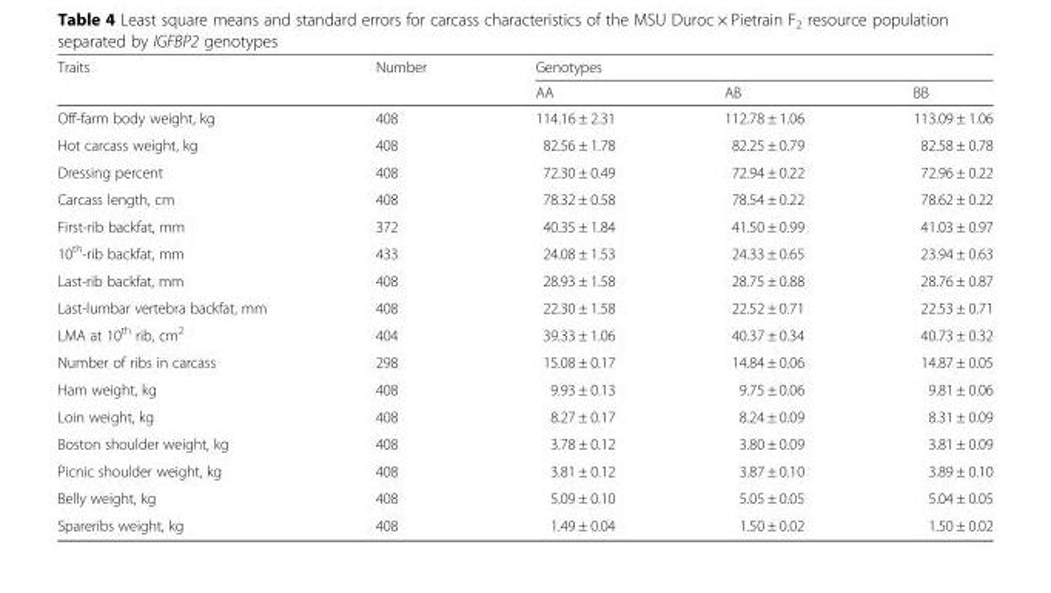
<table><thead><tr><td rowspan="2">Traits</td><td rowspan="2">Number</td><td colspan="3">Genotypes</td></tr><tr><td>AA</td><td>AB</td><td>BB</td></tr></thead><tbody><tr><td>Off-farm body weight, kg</td><td>408</td><td>114.16 ± 2.31</td><td>112.78 ± 1.06</td><td>113.09 ± 1.06</td></tr><tr><td>Hot carcass weight, kg</td><td>408</td><td>82.56 ± 1.78</td><td>82.25 ± 0.79</td><td>82.58 ± 0.78</td></tr><tr><td>Dressing percent</td><td>408</td><td>72.30 ± 0.49</td><td>72.94 ± 0.22</td><td>72.96 ± 0.22</td></tr><tr><td>Carcass length, cm</td><td>408</td><td>78.32 ± 0.58</td><td>78.54 ± 0.22</td><td>78.62 ± 0.22</td></tr><tr><td>First-rib backfat, mm</td><td>372</td><td>40.35 ± 1.84</td><td>41.50 ± 0.99</td><td>41.03 ± 0.97</td></tr><tr><td>10<sup>th</sup>-rib backfat, mm</td><td>433</td><td>24.08 ± 1.53</td><td>24.33 ± 0.65</td><td>23.94 ± 0.63</td></tr><tr><td>Last-rib backfat, mm</td><td>408</td><td>28.93 ± 1.58</td><td>28.75 ± 0.88</td><td>28.76 ± 0.87</td></tr><tr><td>Last-lumbar vertebra backfat, mm</td><td>408</td><td>22.30 ± 1.58</td><td>22.52 ± 0.71</td><td>22.53 ± 0.71</td></tr><tr><td>LMA at 10<sup>th</sup> rib, cm<sup>2</sup></td><td>404</td><td>39.33 ± 1.06</td><td>40.37 ± 0.34</td><td>40.73 ± 0.32</td></tr><tr><td>Number of ribs in carcass</td><td>298</td><td>15.08 ± 0.17</td><td>14.84 ± 0.06</td><td>14.87 ± 0.05</td></tr><tr><td>Ham weight, kg</td><td>408</td><td>9.93 ± 0.13</td><td>9.75 ± 0.06</td><td>9.81 ± 0.06</td></tr><tr><td>Loin weight, kg</td><td>408</td><td>8.27 ± 0.17</td><td>8.24 ± 0.09</td><td>8.31 ± 0.09</td></tr><tr><td>Boston shoulder weight, kg</td><td>408</td><td>3.78 ± 0.12</td><td>3.80 ± 0.09</td><td>3.81 ± 0.09</td></tr><tr><td>Picnic shoulder weight, kg</td><td>408</td><td>3.81 ± 0.12</td><td>3.87 ± 0.10</td><td>3.89 ± 0.10</td></tr><tr><td>Belly weight, kg</td><td>408</td><td>5.09 ± 0.10</td><td>5.05 ± 0.05</td><td>5.04 ± 0.05</td></tr><tr><td>Spareribs weight, kg</td><td>408</td><td>1.49 ± 0.04</td><td>1.50 ± 0.02</td><td>1.50 ± 0.02</td></tr></tbody></table>